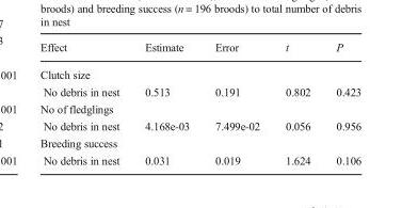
<table><thead><tr><td>Effect</td><td>Estimate</td><td>Error</td><td>t</td><td>P</td></tr></thead><tbody><tr><td colspan="5">Clutch size</td></tr><tr><td>No debris in nest</td><td>0.513</td><td>0.191</td><td>0.802</td><td>0.423</td></tr><tr><td colspan="5">No of fledglings</td></tr><tr><td>No debris in nest</td><td>4.168e-03</td><td>7.499e-02</td><td>0.056</td><td>0.956</td></tr><tr><td colspan="5">Breeding success</td></tr><tr><td>No debris in nest</td><td>0.031</td><td>0.019</td><td>1.624</td><td>0.106</td></tr></tbody></table>